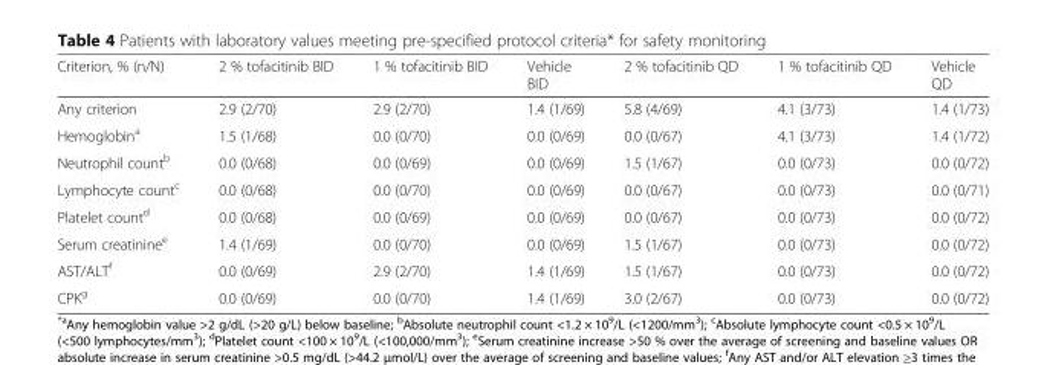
<table><thead><tr><td>Criterion, % (n/N)</td><td>2 % tofacitinib BID</td><td>1 % tofacitinib BID</td><td>Vehicle BID</td><td>2 % tofacitinib QD</td><td>1 % tofacitinib QD</td><td>Vehicle QD</td></tr></thead><tbody><tr><td>Any criterion</td><td>2.9 (2/70)</td><td>2.9 (2/70)</td><td>1.4 (1/69)</td><td>5.8 (4/69)</td><td>4.1 (3/73)</td><td>1.4 (1/73)</td></tr><tr><td>Hemoglobin<sup>a</sup></td><td>1.5 (1/68)</td><td>0.0 (0/70)</td><td>0.0 (0/69)</td><td>0.0 (0/67)</td><td>4.1 (3/73)</td><td>1.4 (1/72)</td></tr><tr><td>Neutrophil count<sup>b</sup></td><td>0.0 (0/68)</td><td>0.0 (0/69)</td><td>0.0 (0/69)</td><td>1.5 (1/67)</td><td>0.0 (0/73)</td><td>0.0 (0/72)</td></tr><tr><td>Lymphocyte count<sup>c</sup></td><td>0.0 (0/68)</td><td>0.0 (0/70)</td><td>0.0 (0/69)</td><td>0.0 (0/67)</td><td>0.0 (0/73)</td><td>0.0 (0/71)</td></tr><tr><td>Platelet count<sup>d</sup></td><td>0.0 (0/68)</td><td>0.0 (0/69)</td><td>0.0 (0/69)</td><td>0.0 (0/67)</td><td>0.0 (0/73)</td><td>0.0 (0/72)</td></tr><tr><td>Serum creatinine<sup>e</sup></td><td>1.4 (1/69)</td><td>0.0 (0/70)</td><td>0.0 (0/69)</td><td>1.5 (1/67)</td><td>0.0 (0/73)</td><td>0.0 (0/72)</td></tr><tr><td>AST/ALT<sup>f</sup></td><td>0.0 (0/69)</td><td>2.9 (2/70)</td><td>1.4 (1/69)</td><td>1.5 (1/67)</td><td>0.0 (0/73)</td><td>0.0 (0/72)</td></tr><tr><td>CPK<sup>g</sup></td><td>0.0 (0/69)</td><td>0.0 (0/70)</td><td>1.4 (1/69)</td><td>3.0 (2/67)</td><td>0.0 (0/73)</td><td>0.0 (0/72)</td></tr></tbody></table>